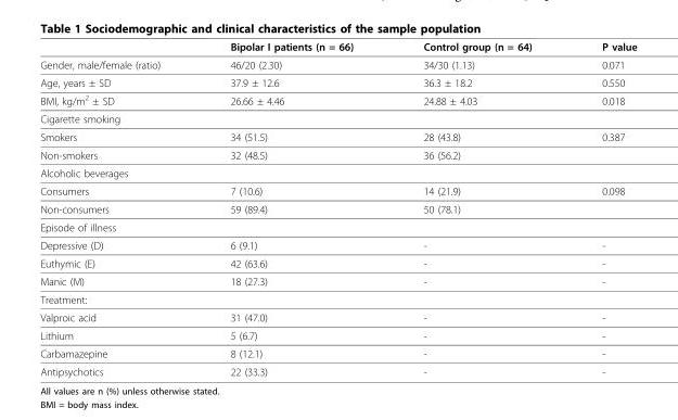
<table><thead><tr><td></td><td>Bipolar I patients (n = 66)</td><td>Control group (n = 64)</td><td>P value</td></tr></thead><tbody><tr><td>Gender, male/female (ratio)</td><td>46/20 (2.30)</td><td>34/30 (1.13)</td><td>0.071</td></tr><tr><td>Age, years ± SD</td><td>37.9 ± 12.6</td><td>36.3 ± 18.2</td><td>0.550</td></tr><tr><td>BMI, kg/m<sup>2</sup> ± SD</td><td>26.66 ± 4.46</td><td>24.88 ± 4.03</td><td>0.018</td></tr><tr><td colspan="4">Cigarette smoking</td></tr><tr><td>Smokers</td><td>34 (51.5)</td><td>28 (43.8)</td><td>0.387</td></tr><tr><td>Non-smokers</td><td>32 (48.5)</td><td>36 (56.2)</td><td></td></tr><tr><td colspan="4">Alcoholic beverages</td></tr><tr><td>Consumers</td><td>7 (10.6)</td><td>14 (21.9)</td><td>0.098</td></tr><tr><td>Non-consumers</td><td>59 (89.4)</td><td>50 (78.1)</td><td></td></tr><tr><td colspan="4">Episode of illness</td></tr><tr><td>Depressive (D)</td><td>6 (9.1)</td><td>-</td><td>-</td></tr><tr><td>Euthymic (E)</td><td>42 (63.6)</td><td>-</td><td>-</td></tr><tr><td>Manic (M)</td><td>18 (27.3)</td><td>-</td><td>-</td></tr><tr><td colspan="4">Treatment:</td></tr><tr><td>Valproic acid</td><td>31 (47.0)</td><td>-</td><td>-</td></tr><tr><td>Lithium</td><td>5 (6.7)</td><td>-</td><td>-</td></tr><tr><td>Carbamazepine</td><td>8 (12.1)</td><td>-</td><td>-</td></tr><tr><td>Antipsychotics</td><td>22 (33.3)</td><td>-</td><td>-</td></tr></tbody></table>